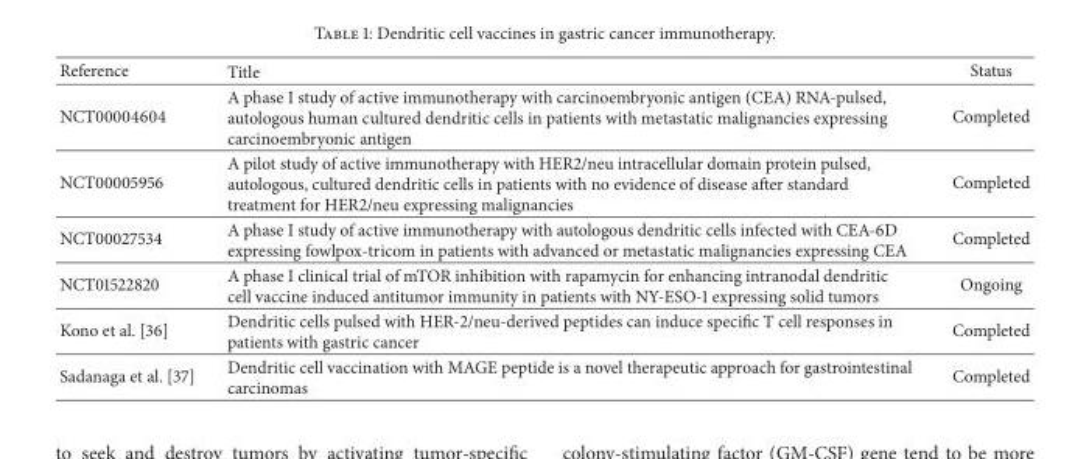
<table><thead><tr><td>Reference</td><td>Title</td><td>Status</td></tr></thead><tbody><tr><td>NCT00004604</td><td>A phase I study of active immunotherapy with carcinoembryonic antigen (CEA) RNA-pulsed, autologous human cultured dendritic cells in patients with metastatic malignancies expressing carcinoembryonic antigen</td><td>Completed</td></tr><tr><td>NCT00005956</td><td>A pilot study of active immunotherapy with HER2/neu intracellular domain protein pulsed, autologous, cultured dendritic cells in patients with no evidence of disease after standard treatment for HER2/neu expressing malignancies</td><td>Completed</td></tr><tr><td>NCT00027534</td><td>A phase I study of active immunotherapy with autologous dendritic cells infected with CEA-6D expressing fowlpox-tricom in patients with advanced or metastatic malignancies expressing CEA</td><td>Completed</td></tr><tr><td>NCT01522820</td><td>A phase I clinical trial of mTOR inhibition with rapamycin for enhancing intranodal dendritic cell vaccine induced antitumor immunity in patients with NY-ESO-1 expressing solid tumors</td><td>Ongoing</td></tr><tr><td>Kono et al. [36]</td><td>Dendritic cells pulsed with HER-2/neu-derived peptides can induce specific T cell responses in patients with gastric cancer</td><td>Completed</td></tr><tr><td>Sadanaga et al. [37]</td><td>Dendritic cell vaccination with MAGE peptide is a novel therapeutic approach for gastrointestinal carcinomas</td><td>Completed</td></tr></tbody></table>